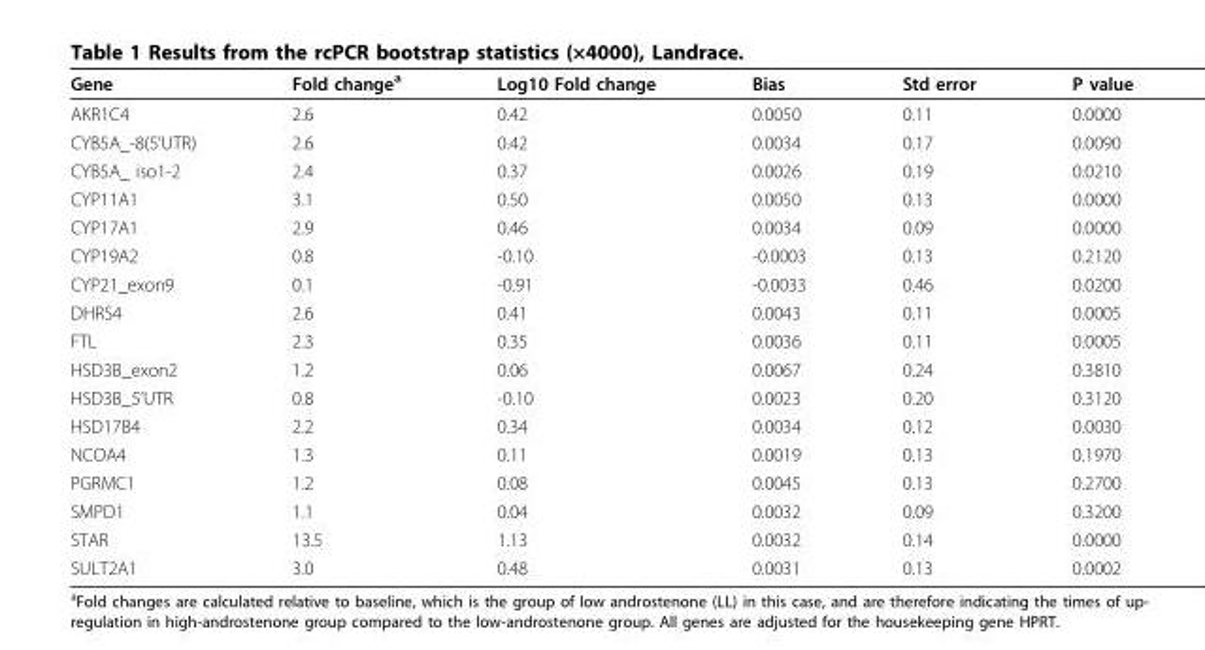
<table><thead><tr><td>Gene</td><td>Fold change<sup>a</sup></td><td>Log10 Fold change</td><td>Bias</td><td>Std error</td><td>P value</td></tr></thead><tbody><tr><td>AKR1C4</td><td>2.6</td><td>0.42</td><td>0.0050</td><td>0.11</td><td>0.0000</td></tr><tr><td>CYB5A_-8(5’UTR)</td><td>2.6</td><td>0.42</td><td>0.0034</td><td>0.17</td><td>0.0090</td></tr><tr><td>CYB5A_ iso1-2</td><td>2.4</td><td>0.37</td><td>0.0026</td><td>0.19</td><td>0.0210</td></tr><tr><td>CYP11A1</td><td>3.1</td><td>0.50</td><td>0.0050</td><td>0.13</td><td>0.0000</td></tr><tr><td>CYP17A1</td><td>2.9</td><td>0.46</td><td>0.0034</td><td>0.09</td><td>0.0000</td></tr><tr><td>CYP19A2</td><td>0.8</td><td>-0.10</td><td>-0.0003</td><td>0.13</td><td>0.2120</td></tr><tr><td>CYP21_exon9</td><td>0.1</td><td>-0.91</td><td>-0.0033</td><td>0.46</td><td>0.0200</td></tr><tr><td>DHRS4</td><td>2.6</td><td>0.41</td><td>0.0043</td><td>0.11</td><td>0.0005</td></tr><tr><td>FTL</td><td>2.3</td><td>0.35</td><td>0.0036</td><td>0.11</td><td>0.0005</td></tr><tr><td>HSD3B_exon2</td><td>1.2</td><td>0.06</td><td>0.0067</td><td>0.24</td><td>0.3810</td></tr><tr><td>HSD3B_5’UTR</td><td>0.8</td><td>-0.10</td><td>0.0023</td><td>0.20</td><td>0.3120</td></tr><tr><td>HSD17B4</td><td>2.2</td><td>0.34</td><td>0.0034</td><td>0.12</td><td>0.0030</td></tr><tr><td>NCOA4</td><td>1.3</td><td>0.11</td><td>0.0019</td><td>0.13</td><td>0.1970</td></tr><tr><td>PGRMC1</td><td>1.2</td><td>0.08</td><td>0.0045</td><td>0.13</td><td>0.2700</td></tr><tr><td>SMPD1</td><td>1.1</td><td>0.04</td><td>0.0032</td><td>0.09</td><td>0.3200</td></tr><tr><td>STAR</td><td>13.5</td><td>1.13</td><td>0.0032</td><td>0.14</td><td>0.0000</td></tr><tr><td>SULT2A1</td><td>3.0</td><td>0.48</td><td>0.0031</td><td>0.13</td><td>0.0002</td></tr></tbody></table>